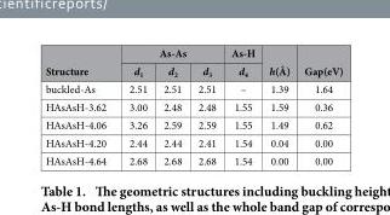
<table><thead><tr><td rowspan="2">Structure</td><td colspan="3">As-As</td><td rowspan="2">As-H d<sub>4</sub></td><td rowspan="2">h(Å)</td><td rowspan="2">Gap(eV)</td></tr><tr><td>d<sub>1</sub></td><td>d<sub>2</sub></td><td>d<sub>3</sub></td></tr></thead><tbody><tr><td>buckled-As</td><td>2.51</td><td>2.51</td><td>2.51</td><td>–</td><td>1.39</td><td>1.64</td></tr><tr><td>HAsAsH-3.62</td><td>3.00</td><td>2.48</td><td>2.48</td><td>1.55</td><td>1.59</td><td>0.36</td></tr><tr><td>HAsAsH-4.06</td><td>3.26</td><td>2.59</td><td>2.59</td><td>1.55</td><td>1.49</td><td>0.62</td></tr><tr><td>HAsAsH-4.20</td><td>2.44</td><td>2.44</td><td>2.41</td><td>1.54</td><td>0.04</td><td>0.00</td></tr><tr><td>HAsAsH-4.64</td><td>2.68</td><td>2.68</td><td>2.68</td><td>1.54</td><td>0.00</td><td>0.00</td></tr></tbody></table>